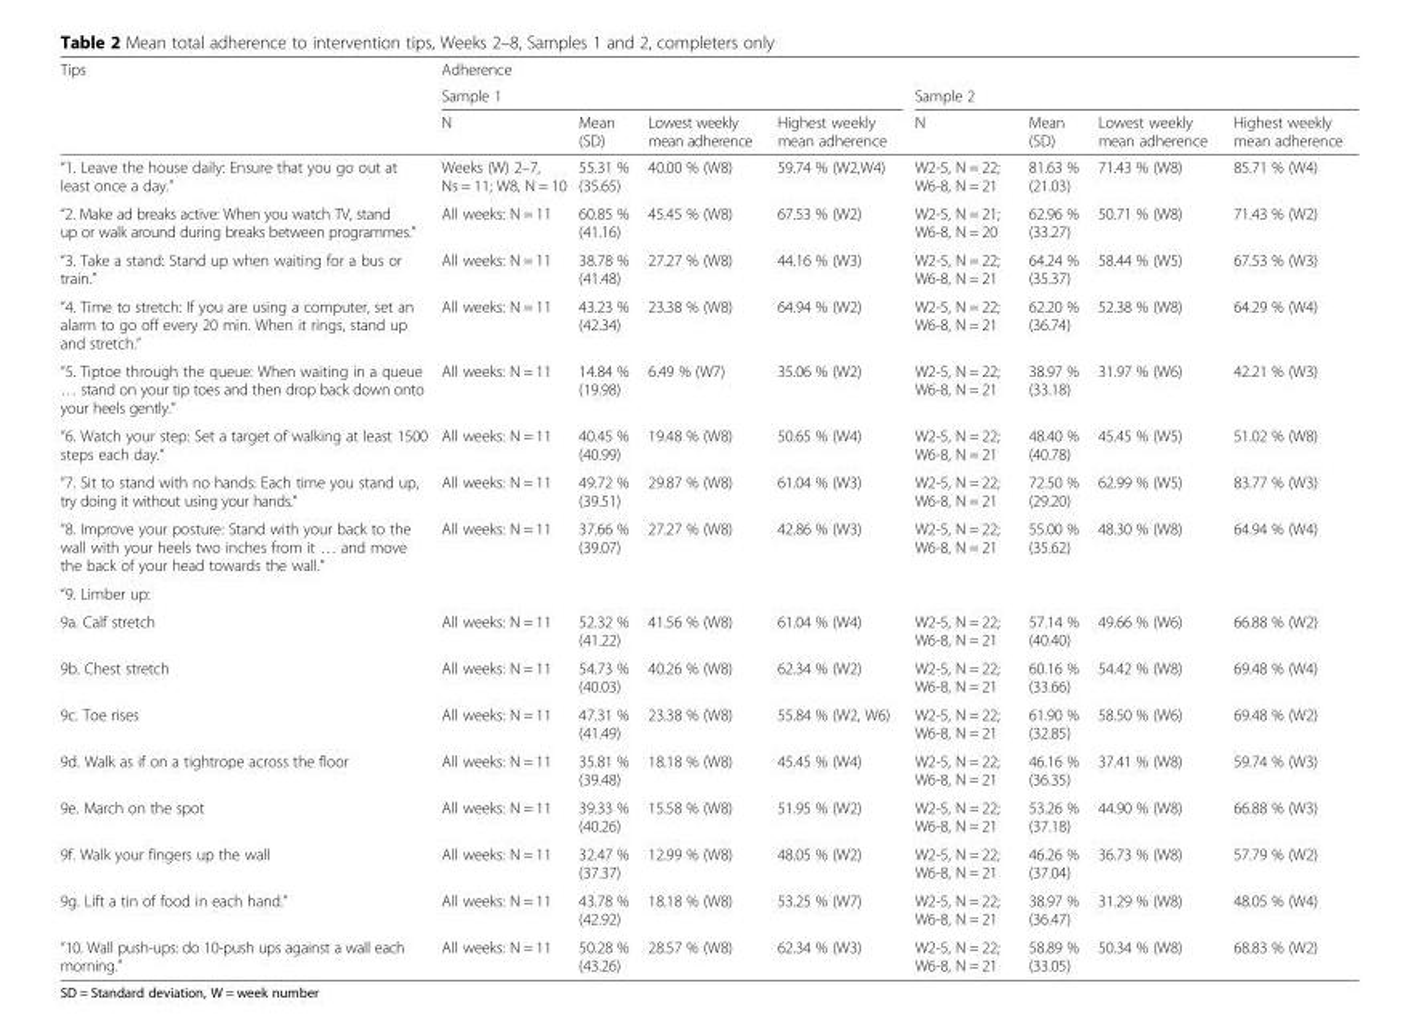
<table><thead><tr><td rowspan="3">Tips</td><td colspan="8">Adherence</td></tr><tr><td colspan="4">Sample 1</td><td colspan="4">Sample 2</td></tr><tr><td>N</td><td>Mean (SD)</td><td>Lowest weekly mean adherence</td><td>Highest weekly mean adherence</td><td>N</td><td>Mean (SD)</td><td>Lowest weekly mean adherence</td><td>Highest weekly mean adherence</td></tr></thead><tbody><tr><td>“1. Leave the house daily: Ensure that you go out at least once a day.”</td><td>Weeks (W) 2–7, Ns = 11; W8, N = 10</td><td>55.31 % (35.65)</td><td>40.00 % (W8)</td><td>59.74 % (W2,W4)</td><td>W2-5, N = 22; W6-8, N = 21</td><td>81.63 % (21.03)</td><td>71.43 % (W8)</td><td>85.71 % (W4)</td></tr><tr><td>“2. Make ad breaks active: When you watch TV, stand up or walk around during breaks between programmes.”</td><td>All weeks: N = 11</td><td>60.85 % (41.16)</td><td>45.45 % (W8)</td><td>67.53 % (W2)</td><td>W2-5, N = 21; W6-8, N = 20</td><td>62.96 % (33.27)</td><td>50.71 % (W8)</td><td>71.43 % (W2)</td></tr><tr><td>“3. Take a stand: Stand up when waiting for a bus or train.”</td><td>All weeks: N = 11</td><td>38.78 % (41.48)</td><td>27.27 % (W8)</td><td>44.16 % (W3)</td><td>W2-5, N = 22; W6-8, N = 21</td><td>64.24 % (35.37)</td><td>58.44 % (W5)</td><td>67.53 % (W3)</td></tr><tr><td>“4. Time to stretch: If you are using a computer, set an alarm to go off every 20 min. When it rings, stand up and stretch.”</td><td>All weeks: N = 11</td><td>43.23 % (42.34)</td><td>23.38 % (W8)</td><td>64.94 % (W2)</td><td>W2-5, N = 22; W6-8, N = 21</td><td>62.20 % (36.74)</td><td>52.38 % (W8)</td><td>64.29 % (W4)</td></tr><tr><td>“5. Tiptoe through the queue: When waiting in a queue … stand on your tip toes and then drop back down onto your heels gently.”</td><td>All weeks: N = 11</td><td>14.84 % (19.98)</td><td>6.49 % (W7)</td><td>35.06 % (W2)</td><td>W2-5, N = 22; W6-8, N = 21</td><td>38.97 % (33.18)</td><td>31.97 % (W6)</td><td>42.21 % (W3)</td></tr><tr><td>“6. Watch your step: Set a target of walking at least 1500 steps each day.”</td><td>All weeks: N = 11</td><td>40.45 % (40.99)</td><td>19.48 % (W8)</td><td>50.65 % (W4)</td><td>W2-5, N = 22; W6-8, N = 21</td><td>48.40 % (40.78)</td><td>45.45 % (W5)</td><td>51.02 % (W8)</td></tr><tr><td>“7. Sit to stand with no hands: Each time you stand up, try doing it without using your hands.”</td><td>All weeks: N = 11</td><td>49.72 % (39.51)</td><td>29.87 % (W8)</td><td>61.04 % (W3)</td><td>W2-5, N = 22; W6-8, N = 21</td><td>72.50 % (29.20)</td><td>62.99 % (W5)</td><td>83.77 % (W3)</td></tr><tr><td>“8. Improve your posture: Stand with your back to the wall with your heels two inches from it … and move the back of your head towards the wall.”</td><td>All weeks: N = 11</td><td>37.66 % (39.07)</td><td>27.27 % (W8)</td><td>42.86 % (W3)</td><td>W2-5, N = 22; W6-8, N = 21</td><td>55.00 % (35.62)</td><td>48.30 % (W8)</td><td>64.94 % (W4)</td></tr><tr><td colspan="9">“9. Limber up:</td></tr><tr><td>9a. Calf stretch</td><td>All weeks: N = 11</td><td>52.32 % (41.22)</td><td>41.56 % (W8)</td><td>61.04 % (W4)</td><td>W2-5, N = 22; W6-8, N = 21</td><td>57.14 % (40.40)</td><td>49.66 % (W6)</td><td>66.88 % (W2)</td></tr><tr><td>9b. Chest stretch</td><td>All weeks: N = 11</td><td>54.73 % (40.03)</td><td>40.26 % (W8)</td><td>62.34 % (W2)</td><td>W2-5, N = 22; W6-8, N = 21</td><td>60.16 % (33.66)</td><td>54.42 % (W8)</td><td>69.48 % (W4)</td></tr><tr><td>9c. Toe rises</td><td>All weeks: N = 11</td><td>47.31 % (41.49)</td><td>23.38 % (W8)</td><td>55.84 % (W2, W6)</td><td>W2-5, N = 22; W6-8, N = 21</td><td>61.90 % (32.85)</td><td>58.50 % (W6)</td><td>69.48 % (W2)</td></tr><tr><td>9d. Walk as if on a tightrope across the floor</td><td>All weeks: N = 11</td><td>35.81 % (39.48)</td><td>18.18 % (W8)</td><td>45.45 % (W4)</td><td>W2-5, N = 22; W6-8, N = 21</td><td>46.16 % (36.35)</td><td>37.41 % (W8)</td><td>59.74 % (W3)</td></tr><tr><td>9e. March on the spot</td><td>All weeks: N = 11</td><td>39.33 % (40.26)</td><td>15.58 % (W8)</td><td>51.95 % (W2)</td><td>W2-5, N = 22; W6-8, N = 21</td><td>53.26 % (37.18)</td><td>44.90 % (W8)</td><td>66.88 % (W3)</td></tr><tr><td>9f. Walk your fingers up the wall</td><td>All weeks: N = 11</td><td>32.47 % (37.37)</td><td>12.99 % (W8)</td><td>48.05 % (W2)</td><td>W2-5, N = 22; W6-8, N = 21</td><td>46.26 % (37.04)</td><td>36.73 % (W8)</td><td>57.79 % (W2)</td></tr><tr><td>9g. Lift a tin of food in each hand.”</td><td>All weeks: N = 11</td><td>43.78 % (42.92)</td><td>18.18 % (W8)</td><td>53.25 % (W7)</td><td>W2-5, N = 22; W6-8, N = 21</td><td>38.97 % (36.47)</td><td>31.29 % (W8)</td><td>48.05 % (W4)</td></tr><tr><td>“10. Wall push-ups: do 10-push ups against a wall each morning.”</td><td>All weeks: N = 11</td><td>50.28 % (43.26)</td><td>28.57 % (W8)</td><td>62.34 % (W3)</td><td>W2-5, N = 22; W6-8, N = 21</td><td>58.89 % (33.05)</td><td>50.34 % (W8)</td><td>68.83 % (W2)</td></tr></tbody></table>